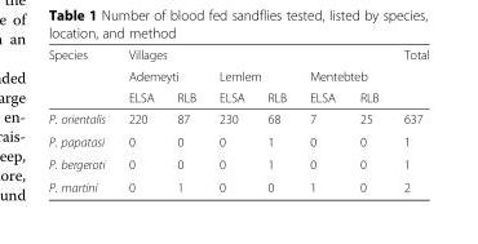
<table><thead><tr><td rowspan="3">Species</td><td colspan="6">Villages</td><td rowspan="3">Total</td></tr><tr><td colspan="2">Ademeyti</td><td colspan="2">Lemlem</td><td colspan="2">Mentebteb</td></tr><tr><td>ELSA</td><td>RLB</td><td>ELSA</td><td>RLB</td><td>ELSA</td><td>RLB</td></tr></thead><tbody><tr><td>P. orientalis</td><td>220</td><td>87</td><td>230</td><td>68</td><td>7</td><td>25</td><td>637</td></tr><tr><td>P. papatasi</td><td>0</td><td>0</td><td>0</td><td>1</td><td>0</td><td>0</td><td>1</td></tr><tr><td>P. bergeroti</td><td>0</td><td>0</td><td>0</td><td>1</td><td>0</td><td>0</td><td>1</td></tr><tr><td>P. martini</td><td>0</td><td>1</td><td>0</td><td>0</td><td>1</td><td>0</td><td>2</td></tr></tbody></table>